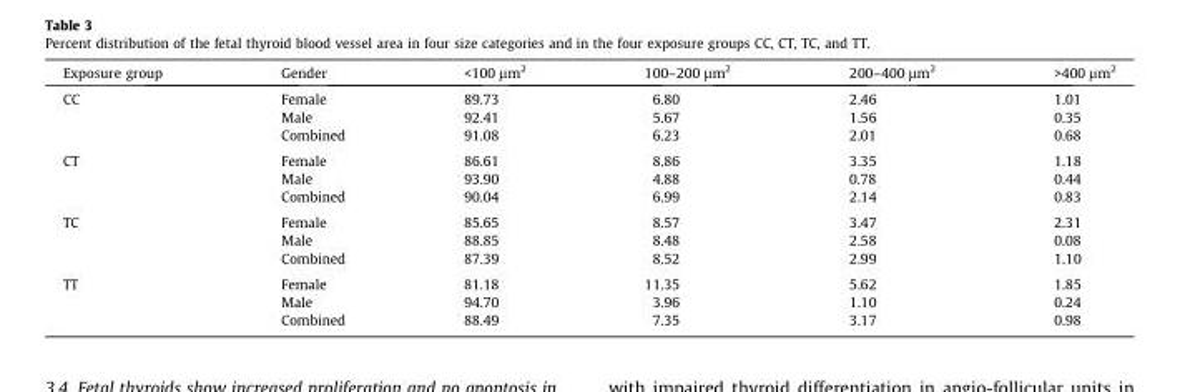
<table><thead><tr><td>Exposure group</td><td>Gender</td><td>&lt;100 μm<sup>2</sup></td><td>100–200 μm<sup>2</sup></td><td>200–400 μm<sup>2</sup></td><td>&gt;400 μm<sup>2</sup></td></tr></thead><tbody><tr><td rowspan="3">CC</td><td>Female</td><td>89.73</td><td>6.80</td><td>2.46</td><td>1.01</td></tr><tr><td>Male</td><td>92.41</td><td>5.67</td><td>1.56</td><td>0.35</td></tr><tr><td>Combined</td><td>91.08</td><td>6.23</td><td>2.01</td><td>0.68</td></tr><tr><td rowspan="3">CT</td><td>Female</td><td>86.61</td><td>8.86</td><td>3.35</td><td>1.18</td></tr><tr><td>Male</td><td>93.90</td><td>4.88</td><td>0.78</td><td>0.44</td></tr><tr><td>Combined</td><td>90.04</td><td>6.99</td><td>2.14</td><td>0.83</td></tr><tr><td rowspan="3">TC</td><td>Female</td><td>85.65</td><td>8.57</td><td>3.47</td><td>2.31</td></tr><tr><td>Male</td><td>88.85</td><td>8.48</td><td>2.58</td><td>0.08</td></tr><tr><td>Combined</td><td>87.39</td><td>8.52</td><td>2.99</td><td>1.10</td></tr><tr><td rowspan="3">TT</td><td>Female</td><td>81.18</td><td>11.35</td><td>5.62</td><td>1.85</td></tr><tr><td>Male</td><td>94.70</td><td>3.96</td><td>1.10</td><td>0.24</td></tr><tr><td>Combined</td><td>88.49</td><td>7.35</td><td>3.17</td><td>0.98</td></tr></tbody></table>